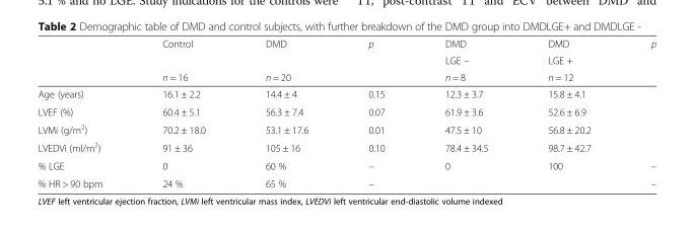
<table><thead><tr><td rowspan="3"></td><td rowspan="3">Control n = 16</td><td rowspan="3">DMD n = 20</td><td rowspan="3">p</td><td rowspan="3">DMD LGE – n = 8</td><td rowspan="3">DMD LGE + n = 12</td><td rowspan="3">p</td></tr><tr></tr><tr></tr></thead><tbody><tr><td>Age (years)</td><td>16.1 ± 2.2</td><td>14.4 ± 4</td><td>0.15</td><td>12.3 ± 3.7</td><td>15.8 ± 4.1</td><td></td></tr><tr><td>LVEF (%)</td><td>60.4 ± 5.1</td><td>56.3 ± 7.4</td><td>0.07</td><td>61.9 ± 3.6</td><td>52.6 ± 6.9</td><td></td></tr><tr><td>LVMi (g/m<sup>2</sup>)</td><td>70.2 ± 18.0</td><td>53.1 ± 17.6</td><td>0.01</td><td>47.5 ± 10</td><td>56.8 ± 20.2</td><td></td></tr><tr><td>LVEDVi (ml/m<sup>2</sup>)</td><td>91 ± 36</td><td>105 ± 16</td><td>0.10</td><td>78.4 ± 34.5</td><td>98.7 ± 42.7</td><td></td></tr><tr><td>% LGE</td><td>0</td><td>60 %</td><td>–</td><td>0</td><td>100</td><td>–</td></tr><tr><td>% HR &gt; 90 bpm</td><td>24 %</td><td>65 %</td><td>–</td><td></td><td></td><td>–</td></tr></tbody></table>